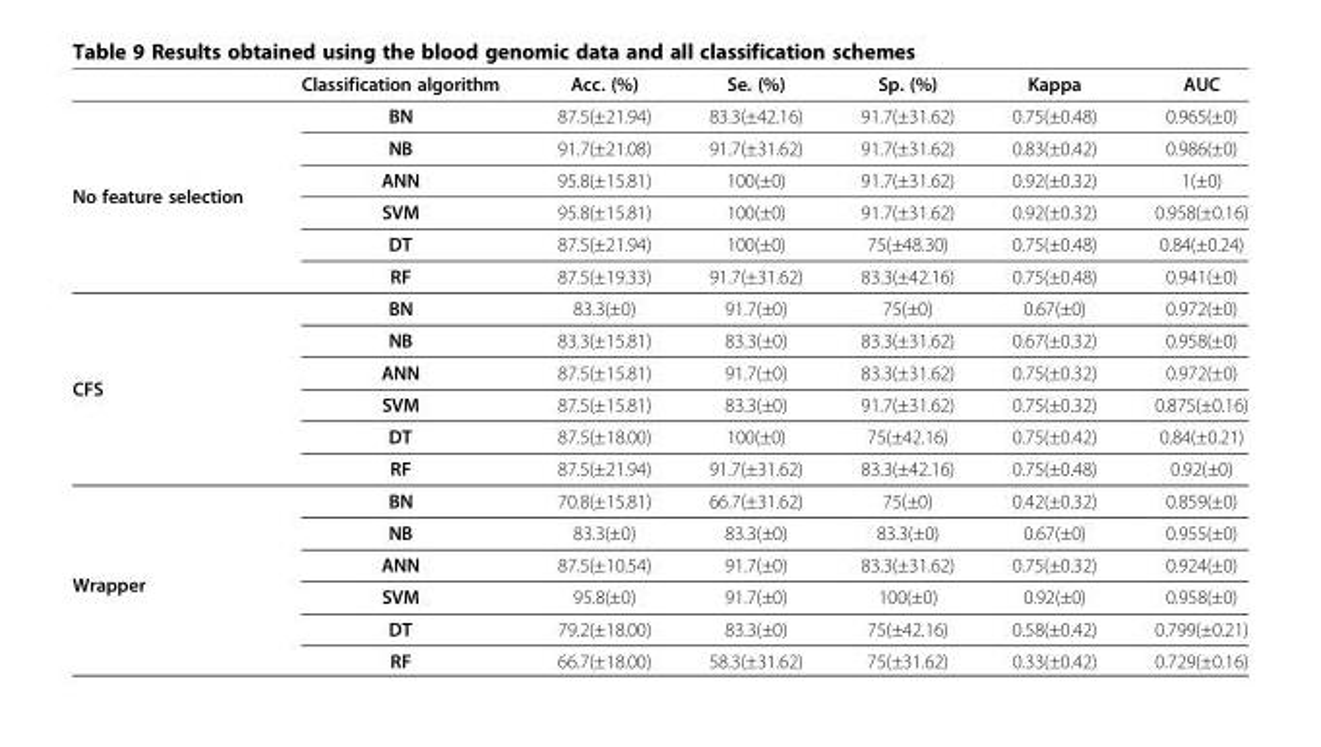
<table><thead><tr><td></td><td>Classification algorithm</td><td>Acc. (%)</td><td>Se. (%)</td><td>Sp. (%)</td><td>Kappa</td><td>AUC</td></tr></thead><tbody><tr><td rowspan="6">No feature selection</td><td>BN</td><td>87.5(±21.94)</td><td>83.3(±42.16)</td><td>91.7(±31.62)</td><td>0.75(±0.48)</td><td>0.965(±0)</td></tr><tr><td>NB</td><td>91.7(±21.08)</td><td>91.7(±31.62)</td><td>91.7(±31.62)</td><td>0.83(±0.42)</td><td>0.986(±0)</td></tr><tr><td>ANN</td><td>95.8(±15.81)</td><td>100(±0)</td><td>91.7(±31.62)</td><td>0.92(±0.32)</td><td>1(±0)</td></tr><tr><td>SVM</td><td>95.8(±15.81)</td><td>100(±0)</td><td>91.7(±31.62)</td><td>0.92(±0.32)</td><td>0.958(±0.16)</td></tr><tr><td>DT</td><td>87.5(±21.94)</td><td>100(±0)</td><td>75(±48.30)</td><td>0.75(±0.48)</td><td>0.84(±0.24)</td></tr><tr><td>RF</td><td>87.5(±19.33)</td><td>91.7(±31.62)</td><td>83.3(±42.16)</td><td>0.75(±0.48)</td><td>0.941(±0)</td></tr><tr><td rowspan="6">CFS</td><td>BN</td><td>83.3(±0)</td><td>91.7(±0)</td><td>75(±0)</td><td>0.67(±0)</td><td>0.972(±0)</td></tr><tr><td>NB</td><td>83.3(±15.81)</td><td>83.3(±0)</td><td>83.3(±31.62)</td><td>0.67(±0.32)</td><td>0.958(±0)</td></tr><tr><td>ANN</td><td>87.5(±15.81)</td><td>91.7(±0)</td><td>83.3(±31.62)</td><td>0.75(±0.32)</td><td>0.972(±0)</td></tr><tr><td>SVM</td><td>87.5(±15.81)</td><td>83.3(±0)</td><td>91.7(±31.62)</td><td>0.75(±0.32)</td><td>0.875(±0.16)</td></tr><tr><td>DT</td><td>87.5(±18.00)</td><td>100(±0)</td><td>75(±42.16)</td><td>0.75(±0.42)</td><td>0.84(±0.21)</td></tr><tr><td>RF</td><td>87.5(±21.94)</td><td>91.7(±31.62)</td><td>83.3(±42.16)</td><td>0.75(±0.48)</td><td>0.92(±0)</td></tr><tr><td rowspan="6">Wrapper</td><td>BN</td><td>70.8(±15.81)</td><td>66.7(±31.62)</td><td>75(±0)</td><td>0.42(±0.32)</td><td>0.859(±0)</td></tr><tr><td>NB</td><td>83.3(±0)</td><td>83.3(±0)</td><td>83.3(±0)</td><td>0.67(±0)</td><td>0.955(±0)</td></tr><tr><td>ANN</td><td>87.5(±10.54)</td><td>91.7(±0)</td><td>83.3(±31.62)</td><td>0.75(±0.32)</td><td>0.924(±0)</td></tr><tr><td>SVM</td><td>95.8(±0)</td><td>91.7(±0)</td><td>100(±0)</td><td>0.92(±0)</td><td>0.958(±0)</td></tr><tr><td>DT</td><td>79.2(±18.00)</td><td>83.3(±0)</td><td>75(±42.16)</td><td>0.58(±0.42)</td><td>0.799(±0.21)</td></tr><tr><td>RF</td><td>66.7(±18.00)</td><td>58.3(±31.62)</td><td>75(±31.62)</td><td>0.33(±0.42)</td><td>0.729(±0.16)</td></tr></tbody></table>